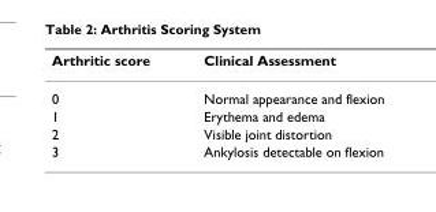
<table><thead><tr><td>Arthritic score</td><td>Clinical Assessment</td></tr></thead><tbody><tr><td>0</td><td>Normal appearance and flexion</td></tr><tr><td>1</td><td>Erythema and edema</td></tr><tr><td>2</td><td>Visible joint distortion</td></tr><tr><td>3</td><td>Ankylosis detectable on flexion</td></tr></tbody></table>